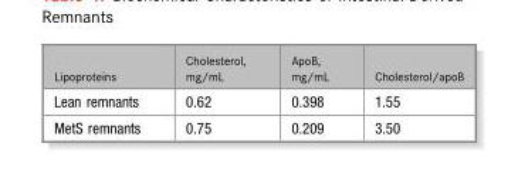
<table><thead><tr><td>Lipoproteins</td><td>Cholesterol, mg/mL</td><td>ApoB, mg/mL</td><td>Cholesterol/apoB</td></tr></thead><tbody><tr><td>Lean remnants</td><td>0.62</td><td>0.398</td><td>1.55</td></tr><tr><td>MetS remnants</td><td>0.75</td><td>0.209</td><td>3.50</td></tr></tbody></table>